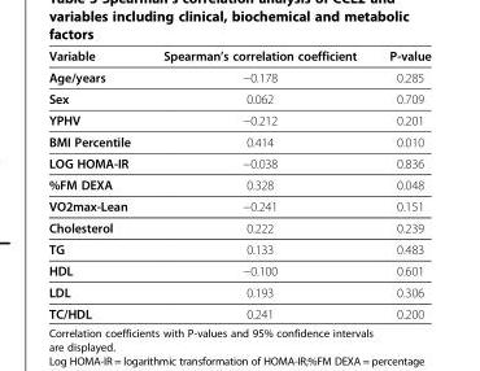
<table><thead><tr><td>Variable</td><td>Spearman’s correlation coefficient</td><td>P-value</td></tr></thead><tbody><tr><td>Age/years</td><td>−0.178</td><td>0.285</td></tr><tr><td>Sex</td><td>0.062</td><td>0.709</td></tr><tr><td>YPHV</td><td>−0.212</td><td>0.201</td></tr><tr><td>BMI Percentile</td><td>0.414</td><td>0.010</td></tr><tr><td>LOG HOMA-IR</td><td>−0.038</td><td>0.836</td></tr><tr><td>%FM DEXA</td><td>0.328</td><td>0.048</td></tr><tr><td>VO2max-Lean</td><td>−0.241</td><td>0.151</td></tr><tr><td>Cholesterol</td><td>0.222</td><td>0.239</td></tr><tr><td>TG</td><td>0.133</td><td>0.483</td></tr><tr><td>HDL</td><td>−0.100</td><td>0.601</td></tr><tr><td>LDL</td><td>0.193</td><td>0.306</td></tr><tr><td>TC/HDL</td><td>0.241</td><td>0.200</td></tr></tbody></table>